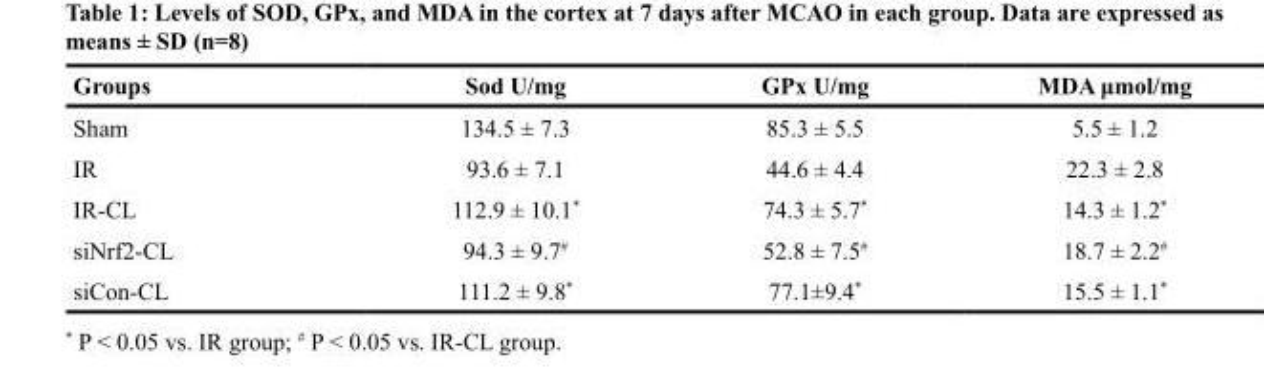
<table><thead><tr><td>Groups</td><td>Sod U/mg</td><td>GPx U/mg</td><td>MDA μmol/mg</td></tr></thead><tbody><tr><td>Sham</td><td>134.5 ± 7.3</td><td>85.3 ± 5.5</td><td>5.5 ± 1.2</td></tr><tr><td>IR</td><td>93.6 ± 7.1</td><td>44.6 ± 4.4</td><td>22.3 ± 2.8</td></tr><tr><td>IR-CL</td><td>112.9 ± 10.1*</td><td>74.3 ± 5.7*</td><td>14.3 ± 1.2*</td></tr><tr><td>siNrf2-CL</td><td>94.3 ± 9.7<sup>#</sup></td><td>52.8 ± 7.5<sup>#</sup></td><td>18.7 ± 2.2<sup>#</sup></td></tr><tr><td>siCon-CL</td><td>111.2 ± 9.8*</td><td>77.1±9.4*</td><td>15.5 ± 1.1*</td></tr></tbody></table>